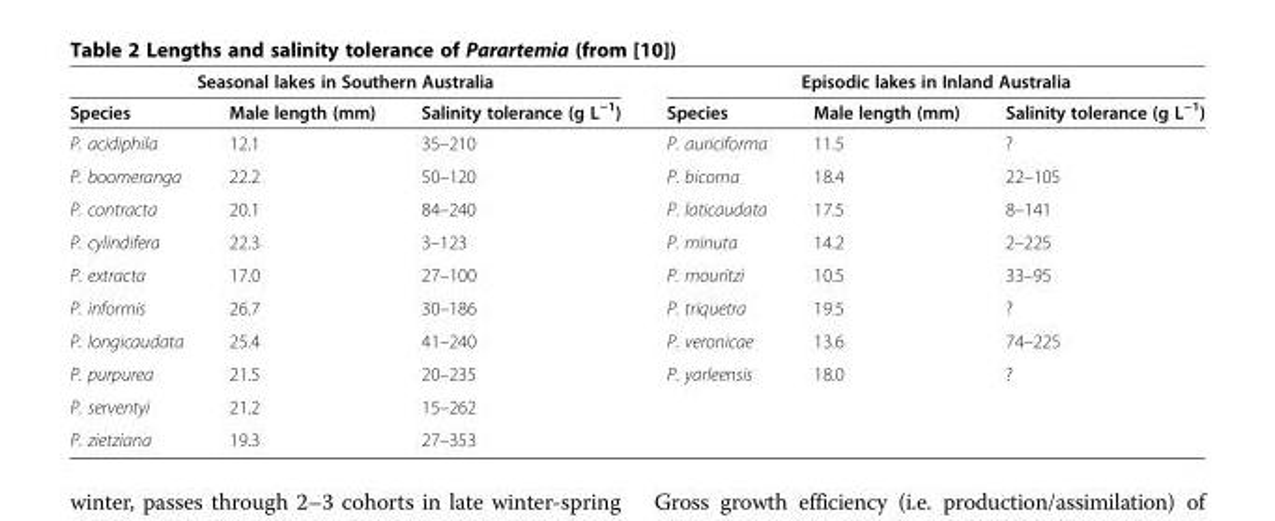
<table><thead><tr><td colspan="3">Seasonal lakes in Southern Australia</td><td colspan="3">Episodic lakes in Inland Australia</td></tr><tr><td>Species</td><td>Male length (mm)</td><td>Salinity tolerance (g L<sup>−1</sup>)</td><td>Species</td><td>Male length (mm)</td><td>Salinity tolerance (g L<sup>−1</sup>)</td></tr></thead><tbody><tr><td>P. acidiphila</td><td>12.1</td><td>35–210</td><td>P. auriciforma</td><td>11.5</td><td>?</td></tr><tr><td>P. boomeranga</td><td>22.2</td><td>50–120</td><td>P. bicorna</td><td>18.4</td><td>22–105</td></tr><tr><td>P. contracta</td><td>20.1</td><td>84–240</td><td>P. laticaudata</td><td>17.5</td><td>8–141</td></tr><tr><td>P. cylindifera</td><td>22.3</td><td>3–123</td><td>P. minuta</td><td>14.2</td><td>2–225</td></tr><tr><td>P. extracta</td><td>17.0</td><td>27–100</td><td>P. mouritzi</td><td>10.5</td><td>33–95</td></tr><tr><td>P. informis</td><td>26.7</td><td>30–186</td><td>P. triquetra</td><td>19.5</td><td>?</td></tr><tr><td>P. longicaudata</td><td>25.4</td><td>41–240</td><td>P. veronicae</td><td>13.6</td><td>74–225</td></tr><tr><td>P. purpurea</td><td>21.5</td><td>20–235</td><td>P. yarleensis</td><td>18.0</td><td>?</td></tr><tr><td>P. serventyi</td><td>21.2</td><td>15–262</td><td></td><td></td><td></td></tr><tr><td>P. zietziana</td><td>19.3</td><td>27–353</td><td></td><td></td><td></td></tr></tbody></table>